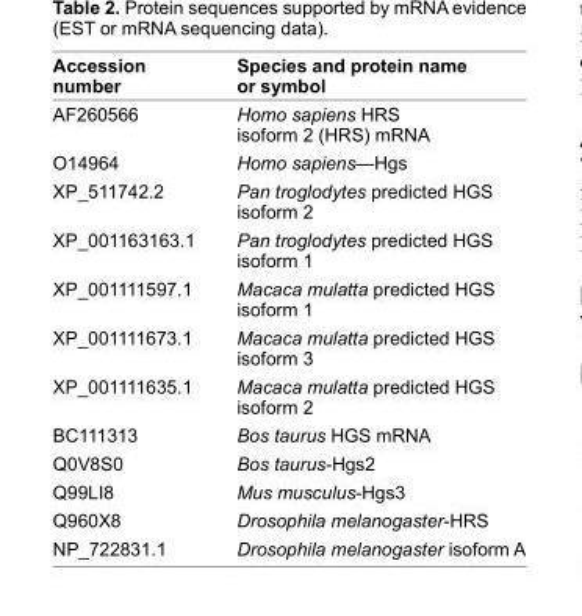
<table><thead><tr><td>Accession number</td><td>species and protein name or symbol</td></tr></thead><tbody><tr><td>AF260566</td><td>Homo sapiens hRS isoform 2 (hRS) mRNA</td></tr><tr><td>o14964</td><td>Homo sapiens—hgs</td></tr><tr><td>Xp_511742.2</td><td>Pan troglodytes predicted hGS isoform 2</td></tr><tr><td>Xp_001163163.1</td><td>Pan troglodytes predicted hGS isoform 1</td></tr><tr><td>Xp_001111597.1</td><td>Macaca mulatta predicted hGS isoform 1</td></tr><tr><td>Xp_001111673.1</td><td>Macaca mulatta predicted hGS isoform 3</td></tr><tr><td>Xp_001111635.1</td><td>Macaca mulatta predicted hGS isoform 2</td></tr><tr><td>BC111313</td><td>Bos taurus hGS mRNA</td></tr><tr><td>Q0V8S0</td><td>Bos taurus-hgs2</td></tr><tr><td>Q99LI8</td><td>Mus musculus-hgs3</td></tr><tr><td>Q960X8</td><td>Drosophila melanogaster-hRS</td></tr><tr><td>Np_722831.1</td><td>Drosophila melanogaster isoform A</td></tr></tbody></table>